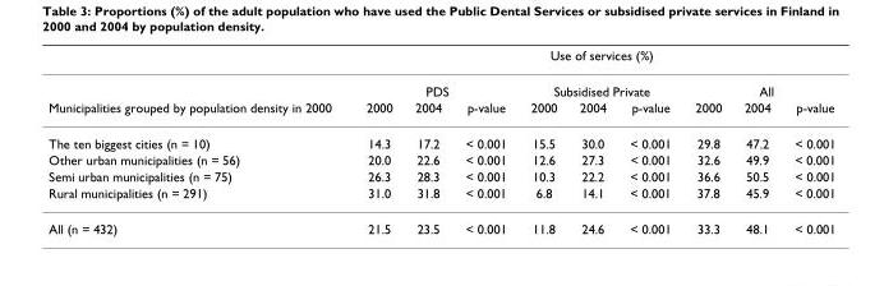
<table><thead><tr><td rowspan="3">Municipalities grouped by population density in 2000</td><td colspan="9">Use of services (%)</td></tr><tr><td colspan="3">PDS</td><td colspan="3">Subsidised Private</td><td colspan="3">All</td></tr><tr><td>2000</td><td>2004</td><td>p-value</td><td>2000</td><td>2004</td><td>p-value</td><td>2000</td><td>2004</td><td>p-value</td></tr></thead><tbody><tr><td>The ten biggest cities (n = 10)</td><td>14.3</td><td>17.2</td><td>&lt; 0.001</td><td>15.5</td><td>30.0</td><td>&lt; 0.001</td><td>29.8</td><td>47.2</td><td>&lt; 0.001</td></tr><tr><td>Other urban municipalities (n = 56)</td><td>20.0</td><td>22.6</td><td>&lt; 0.001</td><td>12.6</td><td>27.3</td><td>&lt; 0.001</td><td>32.6</td><td>49.9</td><td>&lt; 0.001</td></tr><tr><td>Semi urban municipalities (n = 75)</td><td>26.3</td><td>28.3</td><td>&lt; 0.001</td><td>10.3</td><td>22.2</td><td>&lt; 0.001</td><td>36.6</td><td>50.5</td><td>&lt; 0.001</td></tr><tr><td>Rural municipalities (n = 291)</td><td>31.0</td><td>31.8</td><td>&lt; 0.001</td><td>6.8</td><td>14.1</td><td>&lt; 0.001</td><td>37.8</td><td>45.9</td><td>&lt; 0.001</td></tr><tr><td>All (n = 432)</td><td>21.5</td><td>23.5</td><td>&lt; 0.001</td><td>11.8</td><td>24.6</td><td>&lt; 0.001</td><td>33.3</td><td>48.1</td><td>&lt; 0.001</td></tr></tbody></table>